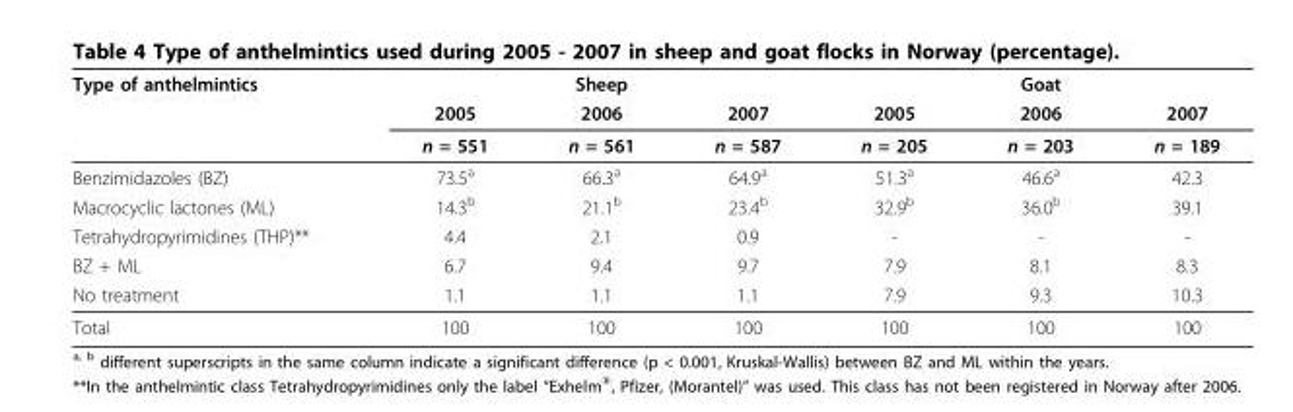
<table><thead><tr><td rowspan="3">Type of anthelmintics</td><td colspan="3">Sheep</td><td colspan="3">Goat</td></tr><tr><td rowspan="2">2005 n = 551</td><td rowspan="2">2006 n = 561</td><td rowspan="2">2007 n = 587</td><td rowspan="2">2005 n = 205</td><td rowspan="2">2006 n = 203</td><td rowspan="2">2007 n = 189</td></tr><tr></tr></thead><tbody><tr><td>Benzimidazoles (BZ)</td><td>73.5<sup>a</sup></td><td>66.3<sup>a</sup></td><td>64.9<sup>a</sup></td><td>51.3<sup>a</sup></td><td>46.6<sup>a</sup></td><td>42.3</td></tr><tr><td>Macrocyclic lactones (ML)</td><td>14.3<sup>b</sup></td><td>21.1<sup>b</sup></td><td>23.4<sup>b</sup></td><td>32.9<sup>b</sup></td><td>36.0<sup>b</sup></td><td>39.1</td></tr><tr><td>Tetrahydropyrimidines (THP)**</td><td>4.4</td><td>2.1</td><td>0.9</td><td>-</td><td>-</td><td>-</td></tr><tr><td>BZ + ML</td><td>6.7</td><td>9.4</td><td>9.7</td><td>7.9</td><td>8.1</td><td>8.3</td></tr><tr><td>No treatment</td><td>1.1</td><td>1.1</td><td>1.1</td><td>7.9</td><td>9.3</td><td>10.3</td></tr><tr><td>Total</td><td>100</td><td>100</td><td>100</td><td>100</td><td>100</td><td>100</td></tr></tbody></table>